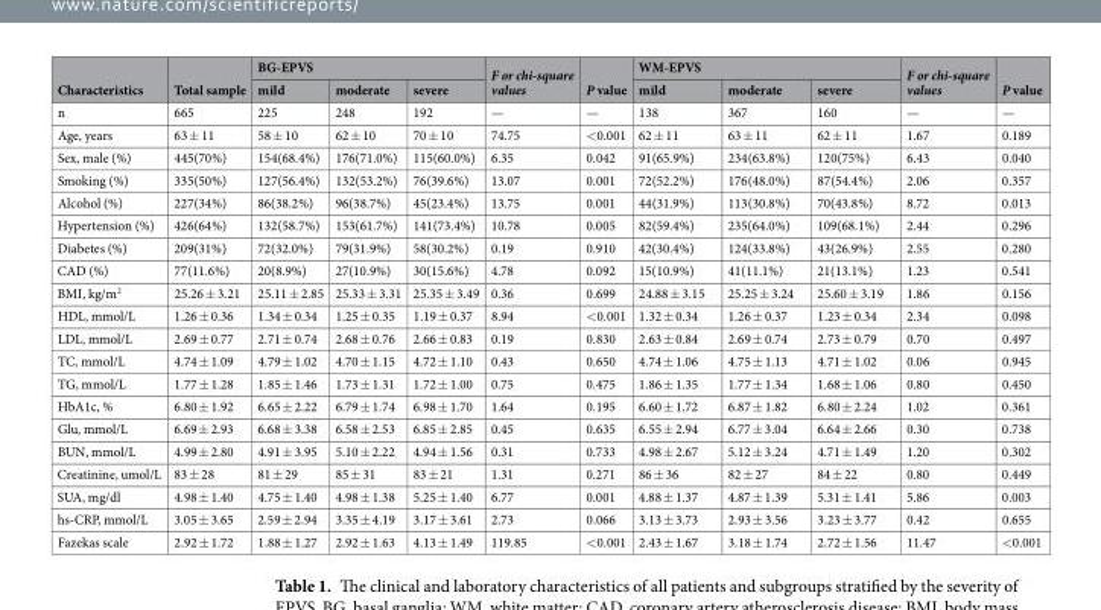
<table><thead><tr><td rowspan="2">Characteristics</td><td rowspan="2">Total sample</td><td colspan="3">BG-EPVS</td><td rowspan="2">F or chi-square values</td><td rowspan="2">P value</td><td colspan="3">WM-EPVS</td><td rowspan="2">F or chi-square values</td><td rowspan="2">P value</td></tr><tr><td>mild</td><td>moderate</td><td>severe</td><td>mild</td><td>moderate</td><td>severe</td></tr></thead><tbody><tr><td>n</td><td>665</td><td>225</td><td>248</td><td>192</td><td>—</td><td>—</td><td>138</td><td>367</td><td>160</td><td>—</td><td>—</td></tr><tr><td>Age, years</td><td>63 ± 11</td><td>58 ± 10</td><td>62 ± 10</td><td>70 ± 10</td><td>74.75</td><td>&lt;0.001</td><td>62 ± 11</td><td>63 ± 11</td><td>62 ± 11</td><td>1.67</td><td>0.189</td></tr><tr><td>Sex, male (%)</td><td>445(70%)</td><td>154(68.4%)</td><td>176(71.0%)</td><td>115(60.0%)</td><td>6.35</td><td>0.042</td><td>91(65.9%)</td><td>234(63.8%)</td><td>120(75%)</td><td>6.43</td><td>0.040</td></tr><tr><td>Smoking (%)</td><td>335(50%)</td><td>127(56.4%)</td><td>132(53.2%)</td><td>76(39.6%)</td><td>13.07</td><td>0.001</td><td>72(52.2%)</td><td>176(48.0%)</td><td>87(54.4%)</td><td>2.06</td><td>0.357</td></tr><tr><td>Alcohol (%)</td><td>227(34%)</td><td>86(38.2%)</td><td>96(38.7%)</td><td>45(23.4%)</td><td>13.75</td><td>0.001</td><td>44(31.9%)</td><td>113(30.8%)</td><td>70(43.8%)</td><td>8.72</td><td>0.013</td></tr><tr><td>Hypertension (%)</td><td>426(64%)</td><td>132(58.7%)</td><td>153(61.7%)</td><td>141(73.4%)</td><td>10.78</td><td>0.005</td><td>82(59.4%)</td><td>235(64.0%)</td><td>109(68.1%)</td><td>2.44</td><td>0.296</td></tr><tr><td>Diabetes (%)</td><td>209(31%)</td><td>72(32.0%)</td><td>79(31.9%)</td><td>58(30.2%)</td><td>0.19</td><td>0.910</td><td>42(30.4%)</td><td>124(33.8%)</td><td>43(26.9%)</td><td>2.55</td><td>0.280</td></tr><tr><td>CAD (%)</td><td>77(11.6%)</td><td>20(8.9%)</td><td>27(10.9%)</td><td>30(15.6%)</td><td>4.78</td><td>0.092</td><td>15(10.9%)</td><td>41(11.1%)</td><td>21(13.1%)</td><td>1.23</td><td>0.541</td></tr><tr><td>BMI, kg/m<sup>2</sup></td><td>25.26 ± 3.21</td><td>25.11 ± 2.85</td><td>25.33 ± 3.31</td><td>25.35 ± 3.49</td><td>0.36</td><td>0.699</td><td>24.88 ± 3.15</td><td>25.25 ± 3.24</td><td>25.60 ± 3.19</td><td>1.86</td><td>0.156</td></tr><tr><td>HDL, mmol/L</td><td>1.26 ± 0.36</td><td>1.34 ± 0.34</td><td>1.25 ± 0.35</td><td>1.19 ± 0.37</td><td>8.94</td><td>&lt;0.001</td><td>1.32 ± 0.34</td><td>1.26 ± 0.37</td><td>1.23 ± 0.34</td><td>2.34</td><td>0.098</td></tr><tr><td>LDL, mmol/L</td><td>2.69 ± 0.77</td><td>2.71 ± 0.74</td><td>2.68 ± 0.76</td><td>2.66 ± 0.83</td><td>0.19</td><td>0.830</td><td>2.63 ± 0.84</td><td>2.69 ± 0.74</td><td>2.73 ± 0.79</td><td>0.70</td><td>0.497</td></tr><tr><td>TC, mmol/L</td><td>4.74 ± 1.09</td><td>4.79 ± 1.02</td><td>4.70 ± 1.15</td><td>4.72 ± 1.10</td><td>0.43</td><td>0.650</td><td>4.74 ± 1.06</td><td>4.75 ± 1.13</td><td>4.71 ± 1.02</td><td>0.06</td><td>0.945</td></tr><tr><td>TG, mmol/L</td><td>1.77 ± 1.28</td><td>1.85 ± 1.46</td><td>1.73 ± 1.31</td><td>1.72 ± 1.00</td><td>0.75</td><td>0.475</td><td>1.86 ± 1.35</td><td>1.77 ± 1.34</td><td>1.68 ± 1.06</td><td>0.80</td><td>0.450</td></tr><tr><td>HbA1c, %</td><td>6.80 ± 1.92</td><td>6.65 ± 2.22</td><td>6.79 ± 1.74</td><td>6.98 ± 1.70</td><td>1.64</td><td>0.195</td><td>6.60 ± 1.72</td><td>6.87 ± 1.82</td><td>6.80 ± 2.24</td><td>1.02</td><td>0.361</td></tr><tr><td>Glu, mmol/L</td><td>6.69 ± 2.93</td><td>6.68 ± 3.38</td><td>6.58 ± 2.53</td><td>6.85 ± 2.85</td><td>0.45</td><td>0.635</td><td>6.55 ± 2.94</td><td>6.77 ± 3.04</td><td>6.64 ± 2.66</td><td>0.30</td><td>0.738</td></tr><tr><td>BUN, mmol/L</td><td>4.99 ± 2.80</td><td>4.91 ± 3.95</td><td>5.10 ± 2.22</td><td>4.94 ± 1.56</td><td>0.31</td><td>0.733</td><td>4.98 ± 2.67</td><td>5.12 ± 3.24</td><td>4.71 ± 1.49</td><td>1.20</td><td>0.302</td></tr><tr><td>Creatinine, umol/L</td><td>83 ± 28</td><td>81 ± 29</td><td>85 ± 31</td><td>83 ± 21</td><td>1.31</td><td>0.271</td><td>86 ± 36</td><td>82 ± 27</td><td>84 ± 22</td><td>0.80</td><td>0.449</td></tr><tr><td>SUA, mg/dl</td><td>4.98 ± 1.40</td><td>4.75 ± 1.40</td><td>4.98 ± 1.38</td><td>5.25 ± 1.40</td><td>6.77</td><td>0.001</td><td>4.88 ± 1.37</td><td>4.87 ± 1.39</td><td>5.31 ± 1.41</td><td>5.86</td><td>0.003</td></tr><tr><td>hs-CRP, mmol/L</td><td>3.05 ± 3.65</td><td>2.59 ± 2.94</td><td>3.35 ± 4.19</td><td>3.17 ± 3.61</td><td>2.73</td><td>0.066</td><td>3.13 ± 3.73</td><td>2.93 ± 3.56</td><td>3.23 ± 3.77</td><td>0.42</td><td>0.655</td></tr><tr><td>Fazekas scale</td><td>2.92 ± 1.72</td><td>1.88 ± 1.27</td><td>2.92 ± 1.63</td><td>4.13 ± 1.49</td><td>119.85</td><td>&lt;0.001</td><td>2.43 ± 1.67</td><td>3.18 ± 1.74</td><td>2.72 ± 1.56</td><td>11.47</td><td>&lt;0.001</td></tr></tbody></table>